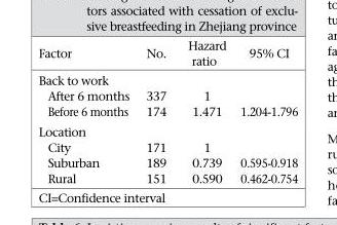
<table><thead><tr><td>Factor</td><td>No.</td><td>Hazard ratio</td><td>95% CI</td></tr></thead><tbody><tr><td colspan="4">Back to work</td></tr><tr><td>After 6 months</td><td>337</td><td>1</td><td></td></tr><tr><td>Before 6 months</td><td>174</td><td>1.471</td><td>1.204-1.796</td></tr><tr><td colspan="4">Location</td></tr><tr><td>City</td><td>171</td><td>1</td><td></td></tr><tr><td>Suburban</td><td>189</td><td>0.739</td><td>0.595-0.918</td></tr><tr><td>Rural</td><td>151</td><td>0.590</td><td>0.462-0.754</td></tr></tbody></table>